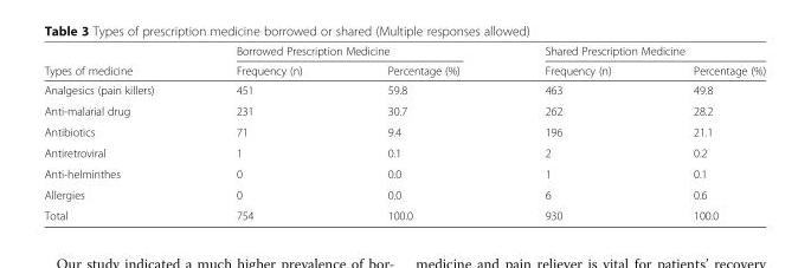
<table><thead><tr><td rowspan="2">Types of medicine</td><td colspan="2">Borrowed Prescription Medicine</td><td colspan="2">Shared Prescription Medicine</td></tr><tr><td>Frequency (n)</td><td>Percentage (%)</td><td>Frequency (n)</td><td>Percentage (%)</td></tr></thead><tbody><tr><td>Analgesics (pain killers)</td><td>451</td><td>59.8</td><td>463</td><td>49.8</td></tr><tr><td>Anti-malarial drug</td><td>231</td><td>30.7</td><td>262</td><td>28.2</td></tr><tr><td>Antibiotics</td><td>71</td><td>9.4</td><td>196</td><td>21.1</td></tr><tr><td>Antiretroviral</td><td>1</td><td>0.1</td><td>2</td><td>0.2</td></tr><tr><td>Anti-helminthes</td><td>0</td><td>0.0</td><td>1</td><td>0.1</td></tr><tr><td>Allergies</td><td>0</td><td>0.0</td><td>6</td><td>0.6</td></tr><tr><td>Total</td><td>754</td><td>100.0</td><td>930</td><td>100.0</td></tr></tbody></table>